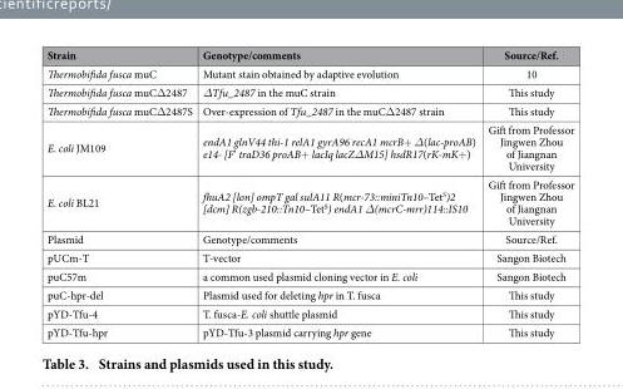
<table><thead><tr><td>Strain</td><td>Genotype/comments</td><td>Source/Ref.</td></tr></thead><tbody><tr><td>Thermobifida fusca muC</td><td>Mutant stain obtained by adaptive evolution</td><td>10</td></tr><tr><td>Thermobifida fusca muCΔ 2487</td><td>ΔTfu_2487 in the muC strain</td><td>This study</td></tr><tr><td>Thermobifida fusca muCΔ 2487S</td><td>Over-expression of Tfu_2487 in the muCΔ 2487 strain</td><td>This study</td></tr><tr><td>E. coli JM109</td><td>endA1 glnV44 thi-1 relA1 gyrA96 recA1 mcrB+ Δ(lac-proAB) e14- [F’ traD36 proAB+ lacIq lacZΔM15] hsdR17(rK-mK+ )</td><td>Gift from Professor Jingwen Zhou of Jiangnan University</td></tr><tr><td>E. coli BL21</td><td>fhuA2 [lon] ompT gal sulA11 R(mcr-73::miniTn10–Tet<sup>S</sup>)2 [dcm] R(zgb-210::Tn10–Tet<sup>S</sup>) endA1 Δ(mcrC-mrr)114::IS10</td><td>Gift from Professor Jingwen Zhou of Jiangnan University</td></tr><tr><td>Plasmid</td><td>Genotype/comments</td><td>Source/Ref.</td></tr><tr><td>pUCm-T</td><td>T-vector</td><td>Sangon Biotech</td></tr><tr><td>puC57m</td><td>a common used plasmid cloning vector in E. coli</td><td>Sangon Biotech</td></tr><tr><td>puC-hpr-del</td><td>Plasmid used for deleting hpr in T. fusca</td><td>This study</td></tr><tr><td>pYD-Tfu-4</td><td>T. fusca-E. coli shuttle plasmid</td><td>This study</td></tr><tr><td>pYD-Tfu-hpr</td><td>pYD-Tfu-3 plasmid carrying hpr gene</td><td>This study</td></tr></tbody></table>